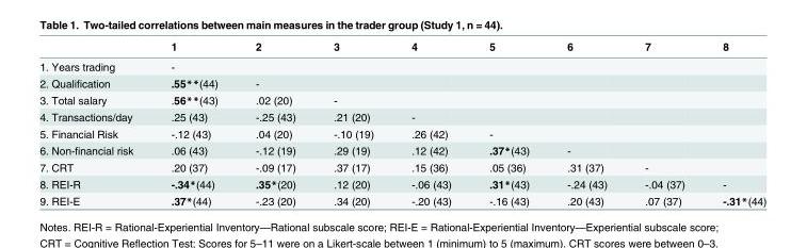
<table><thead><tr><td></td><td>1</td><td>2</td><td>3</td><td>4</td><td>5</td><td>6</td><td>7</td><td>8</td></tr></thead><tbody><tr><td>1. Years trading</td><td>-</td><td></td><td></td><td></td><td></td><td></td><td></td><td></td></tr><tr><td>2. Qualification</td><td>.55**(44)</td><td>-</td><td></td><td></td><td></td><td></td><td></td><td></td></tr><tr><td>3. Total salary</td><td>.56**(43)</td><td>.02 (20)</td><td>-</td><td></td><td></td><td></td><td></td><td></td></tr><tr><td>4. Transactions/day</td><td>.25 (43)</td><td>-.25 (43)</td><td>.21 (20)</td><td>-</td><td></td><td></td><td></td><td></td></tr><tr><td>5. Financial Risk</td><td>-.12 (43)</td><td>.04 (20)</td><td>-.10 (19)</td><td>.26 (42)</td><td>-</td><td></td><td></td><td></td></tr><tr><td>6. Non-financial risk</td><td>.06 (43)</td><td>-.12 (19)</td><td>.29 (19)</td><td>.12 (42)</td><td>.37*(43)</td><td>-</td><td></td><td></td></tr><tr><td>7. CRT</td><td>.20 (37)</td><td>-.09 (17)</td><td>.37 (17)</td><td>.15 (36)</td><td>.05 (36)</td><td>.31 (37)</td><td>-</td><td></td></tr><tr><td>8. REI-R</td><td>-.34*(44)</td><td>.35*(20)</td><td>.12 (20)</td><td>-.06 (43)</td><td>.31*(43)</td><td>-.24 (43)</td><td>-.04 (37)</td><td>-</td></tr><tr><td>9. REI-E</td><td>.37*(44)</td><td>-.23 (20)</td><td>.34 (20)</td><td>-.20 (43)</td><td>-.16 (43)</td><td>.20 (43)</td><td>.07 (37)</td><td>-.31*(44)</td></tr></tbody></table>